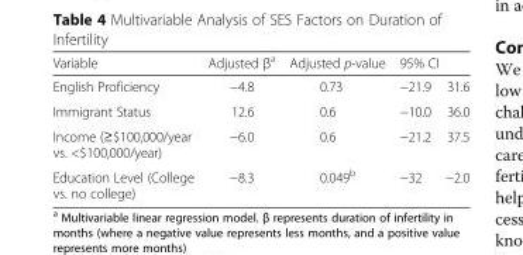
<table><thead><tr><td rowspan="2">Variable English Proficiency</td><td rowspan="2">Adjusted β<sup>a</sup> −4.8</td><td rowspan="2">Adjusted p-value 0.73</td><td colspan="2">95% CI</td></tr><tr><td>−21.9</td><td>31.6</td></tr></thead><tbody><tr><td>Immigrant Status</td><td>12.6</td><td>0.6</td><td>−10.0</td><td>36.0</td></tr><tr><td>Income (≥$100,000/year vs. &lt;$100,000/year)</td><td>−6.0</td><td>0.6</td><td>−21.2</td><td>37.5</td></tr><tr><td>Education Level (College vs. no college)</td><td>−8.3</td><td>0.049<sup>b</sup></td><td>−32</td><td>−2.0</td></tr></tbody></table>